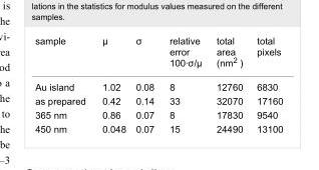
<table><tbody><tr><td>sample</td><td>µ</td><td>σ</td><td>relative error 100·σ/µ</td><td>total area (nm<sup>2</sup> )</td><td>total pixels</td></tr><tr><td>Au island</td><td>1.02</td><td>0.08</td><td>8</td><td>12760</td><td>6830</td></tr><tr><td>as prepared</td><td>0.42</td><td>0.14</td><td>33</td><td>32070</td><td>17160</td></tr><tr><td>365 nm</td><td>0.86</td><td>0.07</td><td>8</td><td>17830</td><td>9540</td></tr><tr><td>450 nm</td><td>0.048</td><td>0.07</td><td>15</td><td>24490</td><td>13100</td></tr></tbody></table>